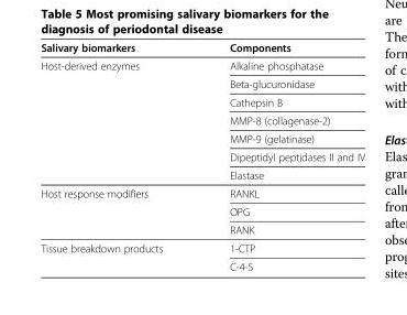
<table><thead><tr><td>Salivary biomarkers</td><td>Components</td></tr></thead><tbody><tr><td rowspan="7">Host-derived enzymes</td><td>Alkaline phosphatase</td></tr><tr><td>Beta-glucuronidase</td></tr><tr><td>Cathepsin B</td></tr><tr><td>MMP-8 (collagenase-2)</td></tr><tr><td>MMP-9 (gelatinase)</td></tr><tr><td>Dipeptidyl peptidases II and IV</td></tr><tr><td>Elastase</td></tr><tr><td rowspan="3">Host response modifiers</td><td>RANKL</td></tr><tr><td>OPG</td></tr><tr><td>RANK</td></tr><tr><td rowspan="2">Tissue breakdown products</td><td>1-CTP</td></tr><tr><td>C-4-S</td></tr></tbody></table>